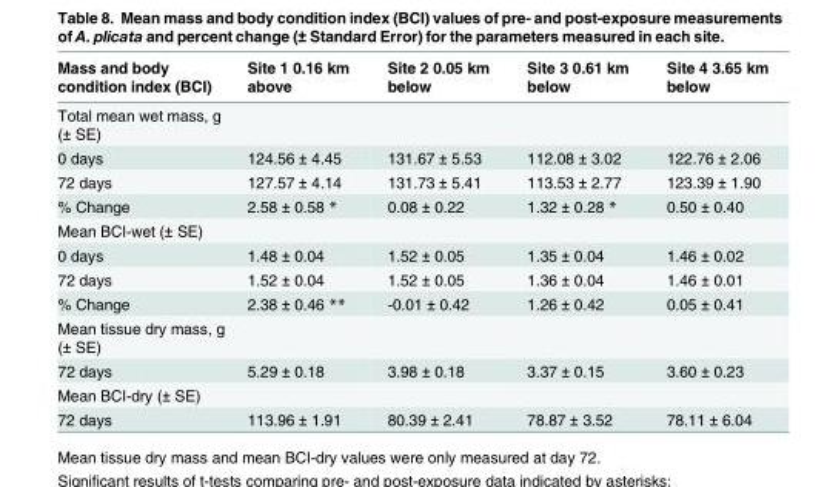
<table><thead><tr><td>Mass and body condition index (BCI)</td><td>Site 1 0.16 km above</td><td>Site 2 0.05 km below</td><td>Site 3 0.61 km below</td><td>Site 4 3.65 km below</td></tr></thead><tbody><tr><td colspan="5">Total mean wet mass, g (± SE)</td></tr><tr><td>0 days</td><td>124.56 ± 4.45</td><td>131.67 ± 5.53</td><td>112.08 ± 3.02</td><td>122.76 ± 2.06</td></tr><tr><td>72 days</td><td>127.57 ± 4.14</td><td>131.73 ± 5.41</td><td>113.53 ± 2.77</td><td>123.39 ± 1.90</td></tr><tr><td>% Change</td><td>2.58 ± 0.58 *</td><td>0.08 ± 0.22</td><td>1.32 ± 0.28 *</td><td>0.50 ± 0.40</td></tr><tr><td colspan="5">Mean BCI-wet (± SE)</td></tr><tr><td>0 days</td><td>1.48 ± 0.04</td><td>1.52 ± 0.05</td><td>1.35 ± 0.04</td><td>1.46 ± 0.02</td></tr><tr><td>72 days</td><td>1.52 ± 0.04</td><td>1.52 ± 0.05</td><td>1.36 ± 0.04</td><td>1.46 ± 0.01</td></tr><tr><td>% Change</td><td>2.38 ± 0.46 **</td><td>-0.01 ± 0.42</td><td>1.26 ± 0.42</td><td>0.05 ± 0.41</td></tr><tr><td colspan="5">Mean tissue dry mass, g (± SE)</td></tr><tr><td>72 days</td><td>5.29 ± 0.18</td><td>3.98 ± 0.18</td><td>3.37 ± 0.15</td><td>3.60 ± 0.23</td></tr><tr><td colspan="5">Mean BCI-dry (± SE)</td></tr><tr><td>72 days</td><td>113.96 ± 1.91</td><td>80.39 ± 2.41</td><td>78.87 ± 3.52</td><td>78.11 ± 6.04</td></tr></tbody></table>